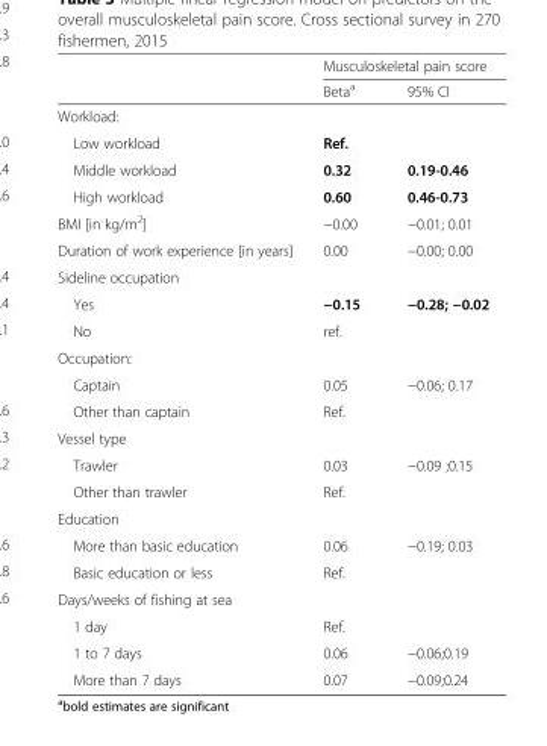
<table><thead><tr><td rowspan="2"></td><td colspan="2">Musculoskeletal pain score</td></tr><tr><td>Beta<sup>a</sup></td><td>95% CI</td></tr></thead><tbody><tr><td colspan="3">Workload:</td></tr><tr><td>Low workload</td><td>Ref.</td><td></td></tr><tr><td>Middle workload</td><td>0.32</td><td>0.19-0.46</td></tr><tr><td>High workload</td><td>0.60</td><td>0.46-0.73</td></tr><tr><td>BMI [in kg/m<sup>2</sup>]</td><td>−0.00</td><td>−0.01; 0.01</td></tr><tr><td>Duration of work experience [in years]</td><td>0.00</td><td>−0.00; 0.00</td></tr><tr><td colspan="3">Sideline occupation</td></tr><tr><td>Yes</td><td>−0.15</td><td>−0.28; −0.02</td></tr><tr><td>No</td><td>ref.</td><td></td></tr><tr><td colspan="3">Occupation:</td></tr><tr><td>Captain</td><td>0.05</td><td>−0.06; 0.17</td></tr><tr><td>Other than captain</td><td>Ref.</td><td></td></tr><tr><td colspan="3">Vessel type</td></tr><tr><td>Trawler</td><td>0.03</td><td>−0.09 ;0.15</td></tr><tr><td>Other than trawler</td><td>Ref.</td><td></td></tr><tr><td colspan="3">Education</td></tr><tr><td>More than basic education</td><td>0.06</td><td>−0.19; 0.03</td></tr><tr><td>Basic education or less</td><td>Ref.</td><td></td></tr><tr><td colspan="3">Days/weeks of fishing at sea</td></tr><tr><td>1 day</td><td>Ref.</td><td></td></tr><tr><td>1 to 7 days</td><td>0.06</td><td>−0.06;0.19</td></tr><tr><td>More than 7 days</td><td>0.07</td><td>−0.09;0.24</td></tr></tbody></table>